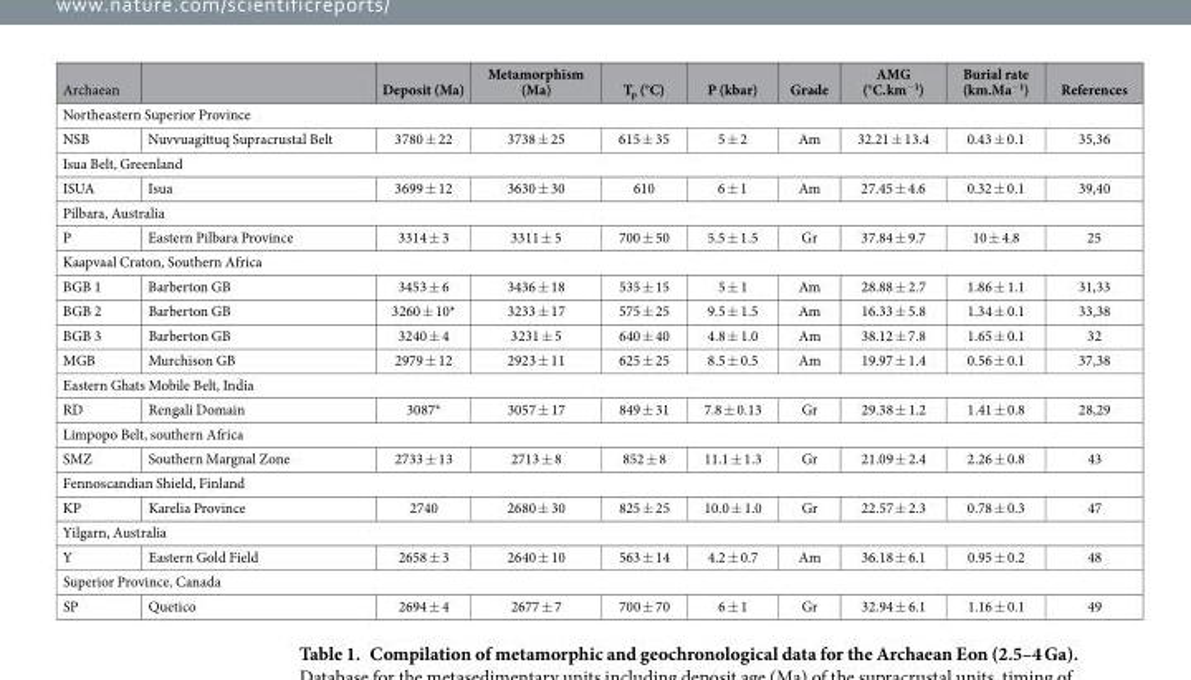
<table><thead><tr><td>Archaean</td><td></td><td>Deposit (Ma)</td><td>Metamorphism (Ma)</td><td>T<sub>p</sub> (°C)</td><td>P (kbar)</td><td>Grade</td><td>AMG (°C.km<sup>−1</sup>)</td><td>Burial rate (km.Ma<sup>−1</sup>)</td><td>References</td></tr></thead><tbody><tr><td colspan="10">Northeastern Superior Province</td></tr><tr><td>NSB</td><td>Nuvvuagittuq Supracrustal Belt</td><td>3780 ± 22</td><td>3738 ± 25</td><td>615 ± 35</td><td>5 ± 2</td><td>Am</td><td>32.21 ± 13.4</td><td>0.43 ± 0.1</td><td>35,36</td></tr><tr><td colspan="10">Isua Belt, Greenland</td></tr><tr><td>ISUA</td><td>Isua</td><td>3699 ± 12</td><td>3630 ± 30</td><td>610</td><td>6 ± 1</td><td>Am</td><td>27.45 ± 4.6</td><td>0.32 ± 0.1</td><td>39,40</td></tr><tr><td colspan="10">Pilbara, Australia</td></tr><tr><td>P</td><td>Eastern Pilbara Province</td><td>3314 ± 3</td><td>3311 ± 5</td><td>700 ± 50</td><td>5.5 ± 1.5</td><td>Gr</td><td>37.84 ± 9.7</td><td>10 ± 4.8</td><td>25</td></tr><tr><td colspan="10">Kaapvaal Craton, Southern Africa</td></tr><tr><td>BGB 1</td><td>Barberton GB</td><td>3453 ± 6</td><td>3436 ± 18</td><td>535 ± 15</td><td>5 ± 1</td><td>Am</td><td>28.88 ± 2.7</td><td>1.86 ± 1.1</td><td>31,33</td></tr><tr><td>BGB 2</td><td>Barberton GB</td><td>3260 ± 10*</td><td>3233 ± 17</td><td>575 ± 25</td><td>9.5 ± 1.5</td><td>Am</td><td>16.33 ± 5.8</td><td>1.34 ± 0.1</td><td>33,38</td></tr><tr><td>BGB 3</td><td>Barberton GB</td><td>3240 ± 4</td><td>3231 ± 5</td><td>640 ± 40</td><td>4.8 ± 1.0</td><td>Am</td><td>38.12 ± 7.8</td><td>1.65 ± 0.1</td><td>32</td></tr><tr><td>MGB</td><td>Murchison GB</td><td>2979 ± 12</td><td>2923 ± 11</td><td>625 ± 25</td><td>8.5 ± 0.5</td><td>Am</td><td>19.97 ± 1.4</td><td>0.56 ± 0.1</td><td>37,38</td></tr><tr><td colspan="10">Eastern Ghats Mobile Belt, India</td></tr><tr><td>RD</td><td>Rengali Domain</td><td>3087*</td><td>3057 ± 17</td><td>849 ± 31</td><td>7.8 ± 0.13</td><td>Gr</td><td>29.38 ± 1.2</td><td>1.41 ± 0.8</td><td>28,29</td></tr><tr><td colspan="10">Limpopo Belt, southern Africa</td></tr><tr><td>SMZ</td><td>Southern Margnal Zone</td><td>2733 ± 13</td><td>2713 ± 8</td><td>852 ± 8</td><td>11.1 ± 1.3</td><td>Gr</td><td>21.09 ± 2.4</td><td>2.26 ± 0.8</td><td>43</td></tr><tr><td colspan="10">Fennoscandian Shield, Finland</td></tr><tr><td>KP</td><td>Karelia Province</td><td>2740</td><td>2680 ± 30</td><td>825 ± 25</td><td>10.0 ± 1.0</td><td>Gr</td><td>22.57 ± 2.3</td><td>0.78 ± 0.3</td><td>47</td></tr><tr><td colspan="10">Yilgarn, Australia</td></tr><tr><td>Y</td><td>Eastern Gold Field</td><td>2658 ± 3</td><td>2640 ± 10</td><td>563 ± 14</td><td>4.2 ± 0.7</td><td>Am</td><td>36.18 ± 6.1</td><td>0.95 ± 0.2</td><td>48</td></tr><tr><td colspan="10">Superior Province, Canada</td></tr><tr><td>SP</td><td>Quetico</td><td>2694 ± 4</td><td>2677 ± 7</td><td>700 ± 70</td><td>6 ± 1</td><td>Gr</td><td>32.94 ± 6.1</td><td>1.16 ± 0.1</td><td>49</td></tr></tbody></table>